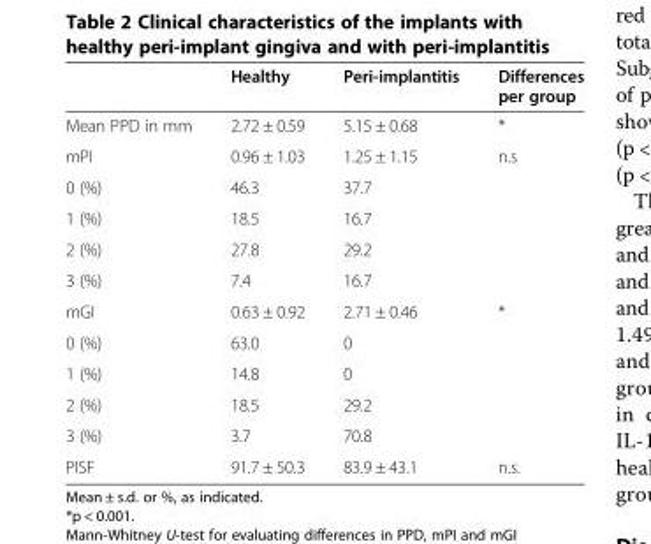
<table><thead><tr><td></td><td>Healthy</td><td>Peri-implantitis</td><td>Differences per group</td></tr></thead><tbody><tr><td>Mean PPD in mm</td><td>2.72 ± 0.59</td><td>5.15 ± 0.68</td><td>*</td></tr><tr><td>mPI</td><td>0.96 ± 1.03</td><td>1.25 ± 1.15</td><td>n.s</td></tr><tr><td>0 (%)</td><td>46.3</td><td>37.7</td><td></td></tr><tr><td>1 (%)</td><td>18.5</td><td>16.7</td><td></td></tr><tr><td>2 (%)</td><td>27.8</td><td>29.2</td><td></td></tr><tr><td>3 (%)</td><td>7.4</td><td>16.7</td><td></td></tr><tr><td>mGI</td><td>0.63 ± 0.92</td><td>2.71 ± 0.46</td><td>*</td></tr><tr><td>0 (%)</td><td>63.0</td><td>0</td><td></td></tr><tr><td>1 (%)</td><td>14.8</td><td>0</td><td></td></tr><tr><td>2 (%)</td><td>18.5</td><td>29.2</td><td></td></tr><tr><td>3 (%)</td><td>3.7</td><td>70.8</td><td></td></tr><tr><td>PISF</td><td>91.7 ± 50.3</td><td>83.9 ± 43.1</td><td>n.s.</td></tr></tbody></table>